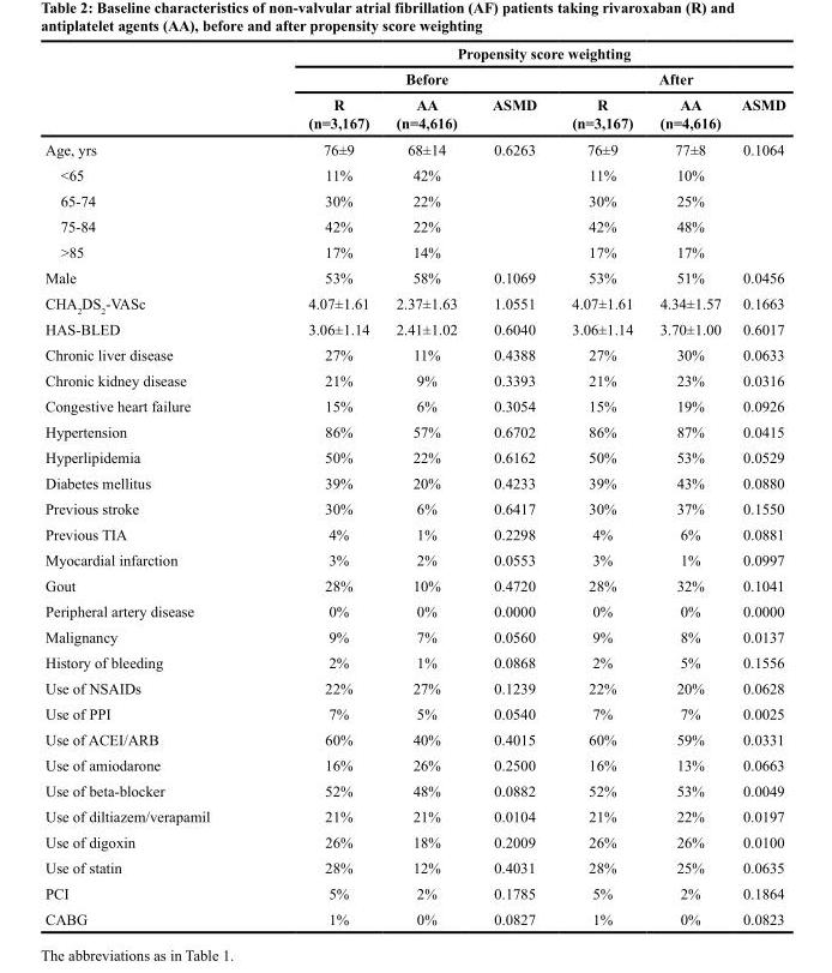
<table><thead><tr><td rowspan="3"></td><td colspan="6">Propensity score weighting</td></tr><tr><td colspan="3">Before</td><td colspan="3">After</td></tr><tr><td>R (n=3,167)</td><td>AA (n=4,616)</td><td>ASMD</td><td>R (n=3,167)</td><td>AA (n=4,616)</td><td>ASMD</td></tr></thead><tbody><tr><td>Age, yrs</td><td>76±9</td><td>68±14</td><td>0.6263</td><td>76±9</td><td>77±8</td><td>0.1064</td></tr><tr><td>&lt;65</td><td>11%</td><td>42%</td><td></td><td>11%</td><td>10%</td><td></td></tr><tr><td>65-74</td><td>30%</td><td>22%</td><td></td><td>30%</td><td>25%</td><td></td></tr><tr><td>75-84</td><td>42%</td><td>22%</td><td></td><td>42%</td><td>48%</td><td></td></tr><tr><td>&gt;85</td><td>17%</td><td>14%</td><td></td><td>17%</td><td>17%</td><td></td></tr><tr><td>Male</td><td>53%</td><td>58%</td><td>0.1069</td><td>53%</td><td>51%</td><td>0.0456</td></tr><tr><td>CHA<sub>2</sub>DS<sub>2</sub>-VASc</td><td>4.07±1.61</td><td>2.37±1.63</td><td>1.0551</td><td>4.07±1.61</td><td>4.34±1.57</td><td>0.1663</td></tr><tr><td>HAS-BLED</td><td>3.06±1.14</td><td>2.41±1.02</td><td>0.6040</td><td>3.06±1.14</td><td>3.70±1.00</td><td>0.6017</td></tr><tr><td>Chronic liver disease</td><td>27%</td><td>11%</td><td>0.4388</td><td>27%</td><td>30%</td><td>0.0633</td></tr><tr><td>Chronic kidney disease</td><td>21%</td><td>9%</td><td>0.3393</td><td>21%</td><td>23%</td><td>0.0316</td></tr><tr><td>Congestive heart failure</td><td>15%</td><td>6%</td><td>0.3054</td><td>15%</td><td>19%</td><td>0.0926</td></tr><tr><td>Hypertension</td><td>86%</td><td>57%</td><td>0.6702</td><td>86%</td><td>87%</td><td>0.0415</td></tr><tr><td>Hyperlipidemia</td><td>50%</td><td>22%</td><td>0.6162</td><td>50%</td><td>53%</td><td>0.0529</td></tr><tr><td>Diabetes mellitus</td><td>39%</td><td>20%</td><td>0.4233</td><td>39%</td><td>43%</td><td>0.0880</td></tr><tr><td>Previous stroke</td><td>30%</td><td>6%</td><td>0.6417</td><td>30%</td><td>37%</td><td>0.1550</td></tr><tr><td>Previous TIA</td><td>4%</td><td>1%</td><td>0.2298</td><td>4%</td><td>6%</td><td>0.0881</td></tr><tr><td>Myocardial infarction</td><td>3%</td><td>2%</td><td>0.0553</td><td>3%</td><td>1%</td><td>0.0997</td></tr><tr><td>Gout</td><td>28%</td><td>10%</td><td>0.4720</td><td>28%</td><td>32%</td><td>0.1041</td></tr><tr><td>Peripheral artery disease</td><td>0%</td><td>0%</td><td>0.0000</td><td>0%</td><td>0%</td><td>0.0000</td></tr><tr><td>Malignancy</td><td>9%</td><td>7%</td><td>0.0560</td><td>9%</td><td>8%</td><td>0.0137</td></tr><tr><td>History of bleeding</td><td>2%</td><td>1%</td><td>0.0868</td><td>2%</td><td>5%</td><td>0.1556</td></tr><tr><td>Use of NSAIDs</td><td>22%</td><td>27%</td><td>0.1239</td><td>22%</td><td>20%</td><td>0.0628</td></tr><tr><td>Use of PPI</td><td>7%</td><td>5%</td><td>0.0540</td><td>7%</td><td>7%</td><td>0.0025</td></tr><tr><td>Use of ACEI/ARB</td><td>60%</td><td>40%</td><td>0.4015</td><td>60%</td><td>59%</td><td>0.0331</td></tr><tr><td>Use of amiodarone</td><td>16%</td><td>26%</td><td>0.2500</td><td>16%</td><td>13%</td><td>0.0663</td></tr><tr><td>Use of beta-blocker</td><td>52%</td><td>48%</td><td>0.0882</td><td>52%</td><td>53%</td><td>0.0049</td></tr><tr><td>Use of diltiazem/verapamil</td><td>21%</td><td>21%</td><td>0.0104</td><td>21%</td><td>22%</td><td>0.0197</td></tr><tr><td>Use of digoxin</td><td>26%</td><td>18%</td><td>0.2009</td><td>26%</td><td>26%</td><td>0.0100</td></tr><tr><td>Use of statin</td><td>28%</td><td>12%</td><td>0.4031</td><td>28%</td><td>25%</td><td>0.0635</td></tr><tr><td>PCI</td><td>5%</td><td>2%</td><td>0.1785</td><td>5%</td><td>2%</td><td>0.1864</td></tr><tr><td>CABG</td><td>1%</td><td>0%</td><td>0.0827</td><td>1%</td><td>0%</td><td>0.0823</td></tr></tbody></table>